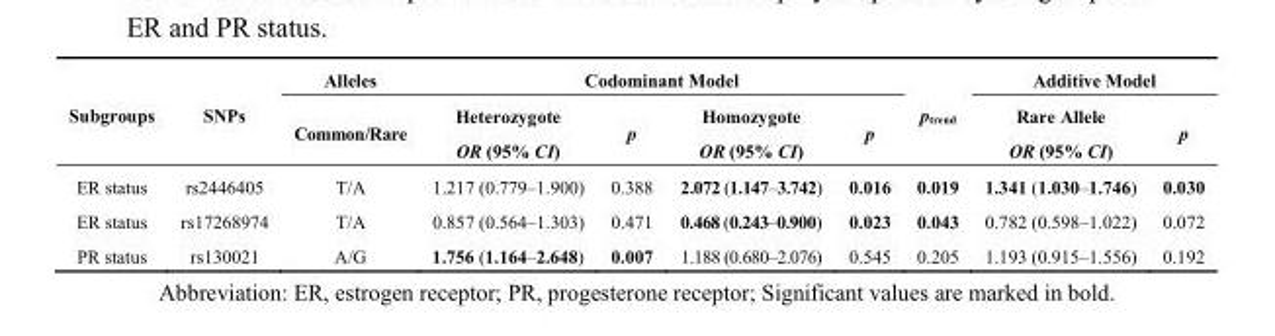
<table><thead><tr><td rowspan="2">Subgroups</td><td rowspan="2">SNPs</td><td rowspan="2">Alleles Common/Rare</td><td colspan="4">Codominant Model</td><td rowspan="2">p<sub>trend</sub></td><td colspan="2">Additive Model</td></tr><tr><td>Heterozygote OR (95% CI)</td><td>p</td><td>Homozygote OR (95% CI)</td><td>p</td><td>Rare Allele OR (95% CI)</td><td>p</td></tr></thead><tbody><tr><td>ER status</td><td>rs2446405</td><td>T/A</td><td>1.217 (0.779–1.900)</td><td>0.388</td><td>2.072 (1.147–3.742)</td><td>0.016</td><td>0.019</td><td>1.341 (1.030–1.746)</td><td>0.030</td></tr><tr><td>ER status</td><td>rs17268974</td><td>T/A</td><td>0.857 (0.564–1.303)</td><td>0.471</td><td>0.468 (0.243–0.900)</td><td>0.023</td><td>0.043</td><td>0.782 (0.598–1.022)</td><td>0.072</td></tr><tr><td>PR status</td><td>rs130021</td><td>A/G</td><td>1.756 (1.164–2.648)</td><td>0.007</td><td>1.188 (0.680–2.076)</td><td>0.545</td><td>0.205</td><td>1.193 (0.915–1.556)</td><td>0.192</td></tr></tbody></table>